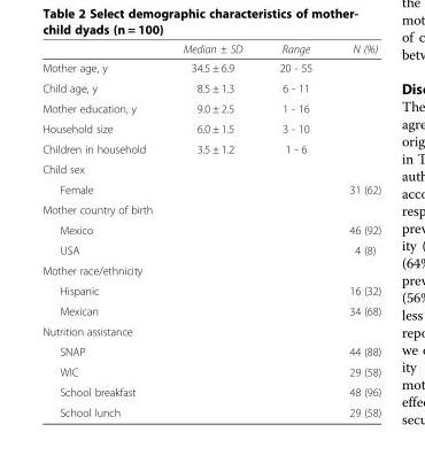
<table><thead><tr><td></td><td>Median ± SD</td><td>Range</td><td>N (%)</td></tr></thead><tbody><tr><td>Mother age, y</td><td>34.5 ± 6.9</td><td>20 - 55</td><td></td></tr><tr><td>Child age, y</td><td>8.5 ± 1.3</td><td>6 - 11</td><td></td></tr><tr><td>Mother education, y</td><td>9.0 ± 2.5</td><td>1 - 16</td><td></td></tr><tr><td>Household size</td><td>6.0 ± 1.5</td><td>3 - 10</td><td></td></tr><tr><td>Children in household</td><td>3.5 ± 1.2</td><td>1 - 6</td><td></td></tr><tr><td colspan="4">Child sex</td></tr><tr><td>Female</td><td></td><td></td><td>31 (62)</td></tr><tr><td colspan="4">Mother country of birth</td></tr><tr><td>Mexico</td><td></td><td></td><td>46 (92)</td></tr><tr><td>USA</td><td></td><td></td><td>4 (8)</td></tr><tr><td colspan="4">Mother race/ethnicity</td></tr><tr><td>Hispanic</td><td></td><td></td><td>16 (32)</td></tr><tr><td>Mexican</td><td></td><td></td><td>34 (68)</td></tr><tr><td colspan="4">Nutrition assistance</td></tr><tr><td>SNAP</td><td></td><td></td><td>44 (88)</td></tr><tr><td>WIC</td><td></td><td></td><td>29 (58)</td></tr><tr><td>School breakfast</td><td></td><td></td><td>48 (96)</td></tr><tr><td>School lunch</td><td></td><td></td><td>29 (58)</td></tr></tbody></table>